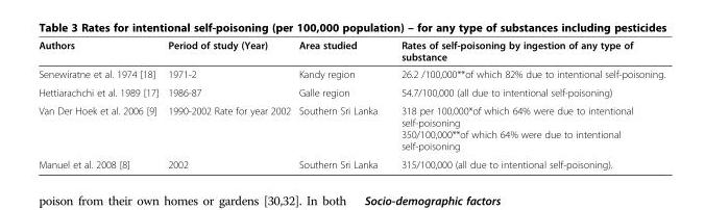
<table><thead><tr><td>Authors</td><td>Period of study (Year)</td><td>Area studied</td><td>Rates of self-poisoning by ingestion of any type of substance</td></tr></thead><tbody><tr><td>Senewiratne et al. 1974 [18]</td><td>1971-2</td><td>Kandy region</td><td>26.2 /100,000**of which 82% due to intentional self-poisoning.</td></tr><tr><td>Hettiarachchi et al. 1989 [17]</td><td>1986-87</td><td>Galle region</td><td>54.7/100,000 (all due to intentional self-poisoning)</td></tr><tr><td>Van Der Hoek et al. 2006 [9]</td><td>1990-2002 Rate for year 2002</td><td>Southern Sri Lanka</td><td>318 per 100,000*of which 64% were due to intentional self-poisoning 350/100,000**of which 64% were due to intentional self-poisoning</td></tr><tr><td>Manuel et al. 2008 [8]</td><td>2002</td><td>Southern Sri Lanka</td><td>315/100,000 (all due to intentional self-poisoning).</td></tr></tbody></table>